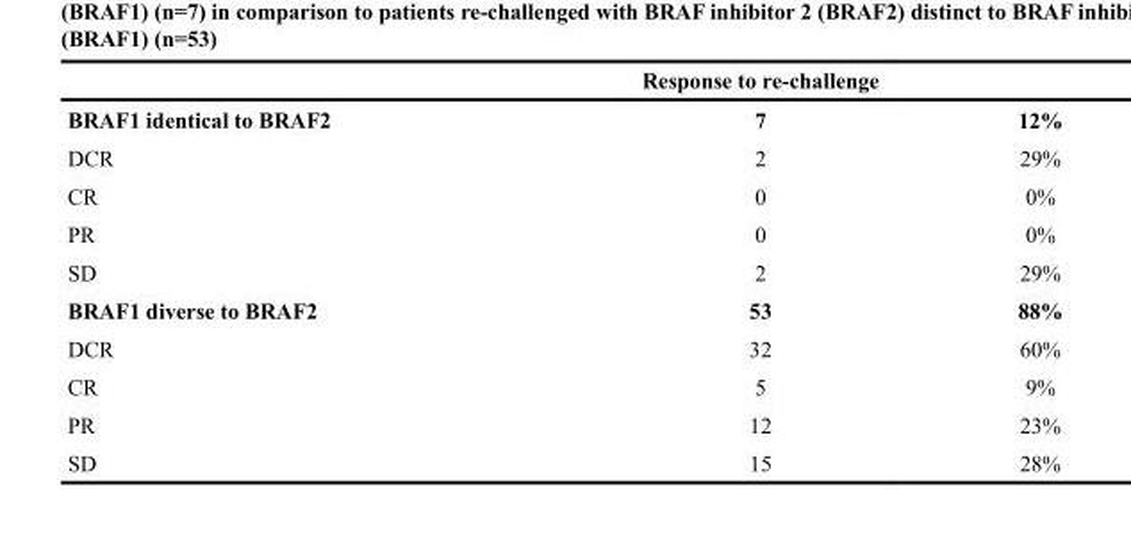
<table><thead><tr><td colspan="3">Response to re-challenge</td></tr><tr><td>BRAF1 identical to BRAF2</td><td>7</td><td>12%</td></tr></thead><tbody><tr><td>DCR</td><td>2</td><td>29%</td></tr><tr><td>CR</td><td>0</td><td>0%</td></tr><tr><td>PR</td><td>0</td><td>0%</td></tr><tr><td>SD</td><td>2</td><td>29%</td></tr><tr><td>BRAF1 diverse to BRAF2</td><td>53</td><td>88%</td></tr><tr><td>DCR</td><td>32</td><td>60%</td></tr><tr><td>CR</td><td>5</td><td>9%</td></tr><tr><td>PR</td><td>12</td><td>23%</td></tr><tr><td>SD</td><td>15</td><td>28%</td></tr></tbody></table>